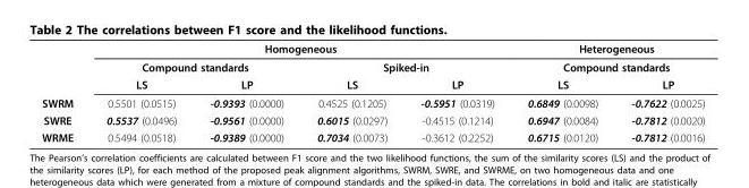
<table><thead><tr><td rowspan="3"></td><td colspan="4">Homogeneous</td><td rowspan="2" colspan="2">Heterogeneous Compound standards</td></tr><tr><td colspan="2">Compound standards</td><td colspan="2">Spiked-in</td></tr><tr><td>LS</td><td>LP</td><td>LS</td><td>LP</td><td>LS</td><td>LP</td></tr></thead><tbody><tr><td>SWRM</td><td>0.5501 (0.0515)</td><td>-0.9393 (0.0000)</td><td>0.4525 (0.1205)</td><td>-0.5951 (0.0319)</td><td>0.6849 (0.0098)</td><td>-0.7622 (0.0025)</td></tr><tr><td>SWRE</td><td>0.5537 (0.0496)</td><td>-0.9561 (0.0000)</td><td>0.6015 (0.0297)</td><td>-0.4515 (0.1214)</td><td>0.6947 (0.0084)</td><td>-0.7812 (0.0020)</td></tr><tr><td>WRME</td><td>0.5494 (0.0518)</td><td>-0.9389 (0.0000)</td><td>0.7034 (0.0073)</td><td>-0.3612 (0.2252)</td><td>0.6715 (0.0120)</td><td>-0.7812 (0.0016)</td></tr></tbody></table>